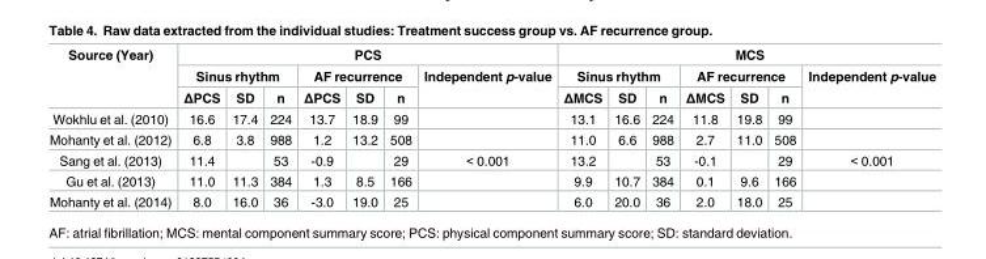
<table><thead><tr><td rowspan="3">Source (Year)</td><td colspan="7">PCS</td><td colspan="7">MCS</td></tr><tr><td colspan="3">Sinus rhythm</td><td colspan="3">AF recurrence</td><td rowspan="2">Independent p-value</td><td colspan="3">Sinus rhythm</td><td colspan="3">AF recurrence</td><td rowspan="2">Independent p-value</td></tr><tr><td>ΔPCS</td><td>SD</td><td>n</td><td>ΔPCS</td><td>SD</td><td>n</td><td>ΔMCS</td><td>SD</td><td>n</td><td>ΔMCS</td><td>SD</td><td>n</td></tr></thead><tbody><tr><td>Wokhlu et al. (2010)</td><td>16.6</td><td>17.4</td><td>224</td><td>13.7</td><td>18.9</td><td>99</td><td></td><td>13.1</td><td>16.6</td><td>224</td><td>11.8</td><td>19.8</td><td>99</td><td></td></tr><tr><td>Mohanty et al. (2012)</td><td>6.8</td><td>3.8</td><td>988</td><td>1.2</td><td>13.2</td><td>508</td><td></td><td>11.0</td><td>6.6</td><td>988</td><td>2.7</td><td>11.0</td><td>508</td><td></td></tr><tr><td>Sang et al. (2013)</td><td>11.4</td><td></td><td>53</td><td>-0.9</td><td></td><td>29</td><td>&lt; 0.001</td><td>13.2</td><td></td><td>53</td><td>-0.1</td><td></td><td>29</td><td>&lt; 0.001</td></tr><tr><td>Gu et al. (2013)</td><td>11.0</td><td>11.3</td><td>384</td><td>1.3</td><td>8.5</td><td>166</td><td></td><td>9.9</td><td>10.7</td><td>384</td><td>0.1</td><td>9.6</td><td>166</td><td></td></tr><tr><td>Mohanty et al. (2014)</td><td>8.0</td><td>16.0</td><td>36</td><td>-3.0</td><td>19.0</td><td>25</td><td></td><td>6.0</td><td>20.0</td><td>36</td><td>2.0</td><td>18.0</td><td>25</td><td></td></tr></tbody></table>